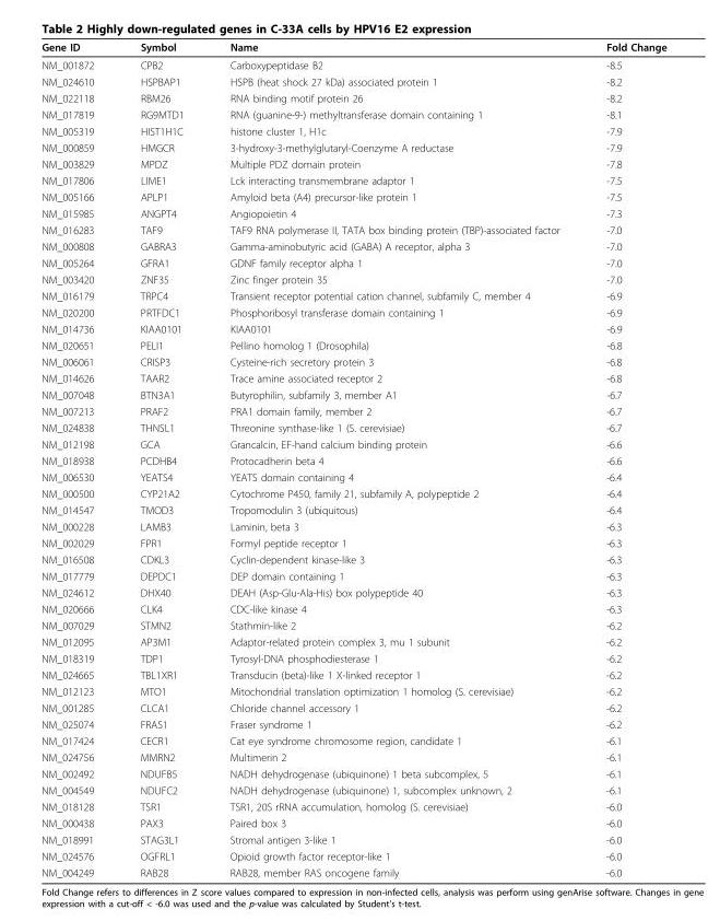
<table><thead><tr><td>Gene ID</td><td>Symbol</td><td>Name</td><td>Fold Change</td></tr></thead><tbody><tr><td>NM_001872</td><td>CPB2</td><td>Carboxypeptidase B2</td><td>-8.5</td></tr><tr><td>NM_024610</td><td>HSPBAP1</td><td>HSPB (heat shock 27 kDa) associated protein 1</td><td>-8.2</td></tr><tr><td>NM_022118</td><td>RBM26</td><td>RNA binding motif protein 26</td><td>-8.2</td></tr><tr><td>NM_017819</td><td>RG9MTD1</td><td>RNA (guanine-9-) methyltransferase domain containing 1</td><td>-8.1</td></tr><tr><td>NM_005319</td><td>HIST1H1C</td><td>histone cluster 1, H1c</td><td>-7.9</td></tr><tr><td>NM_000859</td><td>HMGCR</td><td>3-hydroxy-3-methylglutaryl-Coenzyme A reductase</td><td>-7.9</td></tr><tr><td>NM_003829</td><td>MPDZ</td><td>Multiple PDZ domain protein</td><td>-7.8</td></tr><tr><td>NM_017806</td><td>LIME1</td><td>Lck interacting transmembrane adaptor 1</td><td>-7.5</td></tr><tr><td>NM_005166</td><td>APLP1</td><td>Amyloid beta (A4) precursor-like protein 1</td><td>-7.5</td></tr><tr><td>NM_015985</td><td>ANGPT4</td><td>Angiopoietin 4</td><td>-7.3</td></tr><tr><td>NM_016283</td><td>TAF9</td><td>TAF9 RNA polymerase II, TATA box binding protein (TBP)-associated factor</td><td>-7.0</td></tr><tr><td>NM_000808</td><td>GABRA3</td><td>Gamma-aminobutyric acid (GABA) A receptor, alpha 3</td><td>-7.0</td></tr><tr><td>NM_005264</td><td>GFRA1</td><td>GDNF family receptor alpha 1</td><td>-7.0</td></tr><tr><td>NM_003420</td><td>ZNF35</td><td>Zinc finger protein 35</td><td>-7.0</td></tr><tr><td>NM_016179</td><td>TRPC4</td><td>Transient receptor potential cation channel, subfamily C, member 4</td><td>-6.9</td></tr><tr><td>NM_020200</td><td>PRTFDC1</td><td>Phosphoribosyl transferase domain containing 1</td><td>-6.9</td></tr><tr><td>NM_014736</td><td>KIAA0101</td><td>KIAA0101</td><td>-6.9</td></tr><tr><td>NM_020651</td><td>PELI1</td><td>Pellino homolog 1 (Drosophila)</td><td>-6.8</td></tr><tr><td>NM_006061</td><td>CRISP3</td><td>Cysteine-rich secretory protein 3</td><td>-6.8</td></tr><tr><td>NM_014626</td><td>TAAR2</td><td>Trace amine associated receptor 2</td><td>-6.8</td></tr><tr><td>NM_007048</td><td>BTN3A1</td><td>Butyrophilin, subfamily 3, member A1</td><td>-6.7</td></tr><tr><td>NM_007213</td><td>PRAF2</td><td>PRA1 domain family, member 2</td><td>-6.7</td></tr><tr><td>NM_024838</td><td>THNSL1</td><td>Threonine synthase-like 1 (S. cerevisiae)</td><td>-6.7</td></tr><tr><td>NM_012198</td><td>GCA</td><td>Grancalcin, EF-hand calcium binding protein</td><td>-6.6</td></tr><tr><td>NM_018938</td><td>PCDHB4</td><td>Protocadherin beta 4</td><td>-6.6</td></tr><tr><td>NM_006530</td><td>YEATS4</td><td>YEATS domain containing 4</td><td>-6.4</td></tr><tr><td>NM_000500</td><td>CYP21A2</td><td>Cytochrome P450, family 21, subfamily A, polypeptide 2</td><td>-6.4</td></tr><tr><td>NM_014547</td><td>TMOD3</td><td>Tropomodulin 3 (ubiquitous)</td><td>-6.4</td></tr><tr><td>NM_000228</td><td>LAMB3</td><td>Laminin, beta 3</td><td>-6.3</td></tr><tr><td>NM_002029</td><td>FPR1</td><td>Formyl peptide receptor 1</td><td>-6.3</td></tr><tr><td>NM_016508</td><td>CDKL3</td><td>Cyclin-dependent kinase-like 3</td><td>-6.3</td></tr><tr><td>NM_017779</td><td>DEPDC1</td><td>DEP domain containing 1</td><td>-6.3</td></tr><tr><td>NM_024612</td><td>DHX40</td><td>DEAH (Asp-Glu-Ala-His) box polypeptide 40</td><td>-6.3</td></tr><tr><td>NM_020666</td><td>CLK4</td><td>CDC-like kinase 4</td><td>-6.3</td></tr><tr><td>NM_007029</td><td>STMN2</td><td>Stathmin-like 2</td><td>-6.2</td></tr><tr><td>NM_012095</td><td>AP3M1</td><td>Adaptor-related protein complex 3, mu 1 subunit</td><td>-6.2</td></tr><tr><td>NM_018319</td><td>TDP1</td><td>Tyrosyl-DNA phosphodiesterase 1</td><td>-6.2</td></tr><tr><td>NM_024665</td><td>TBL1XR1</td><td>Transducin (beta)-like 1 X-linked receptor 1</td><td>-6.2</td></tr><tr><td>NM_012123</td><td>MTO1</td><td>Mitochondrial translation optimization 1 homolog (S. cerevisiae)</td><td>-6.2</td></tr><tr><td>NM_001285</td><td>CLCA1</td><td>Chloride channel accessory 1</td><td>-6.2</td></tr><tr><td>NM_025074</td><td>FRAS1</td><td>Fraser syndrome 1</td><td>-6.2</td></tr><tr><td>NM_017424</td><td>CECR1</td><td>Cat eye syndrome chromosome region, candidate 1</td><td>-6.1</td></tr><tr><td>NM_024756</td><td>MMRN2</td><td>Multimerin 2</td><td>-6.1</td></tr><tr><td>NM_002492</td><td>NDUFB5</td><td>NADH dehydrogenase (ubiquinone) 1 beta subcomplex, 5</td><td>-6.1</td></tr><tr><td>NM_004549</td><td>NDUFC2</td><td>NADH dehydrogenase (ubiquinone) 1, subcomplex unknown, 2</td><td>-6.1</td></tr><tr><td>NM_018128</td><td>TSR1</td><td>TSR1, 20S rRNA accumulation, homolog (S. cerevisiae)</td><td>-6.0</td></tr><tr><td>NM_000438</td><td>PAX3</td><td>Paired box 3</td><td>-6.0</td></tr><tr><td>NM_018991</td><td>STAG3L1</td><td>Stromal antigen 3-like 1</td><td>-6.0</td></tr><tr><td>NM_024576</td><td>OGFRL1</td><td>Opioid growth factor receptor-like 1</td><td>-6.0</td></tr><tr><td>NM_004249</td><td>RAB28</td><td>RAB28, member RAS oncogene family</td><td>-6.0</td></tr></tbody></table>